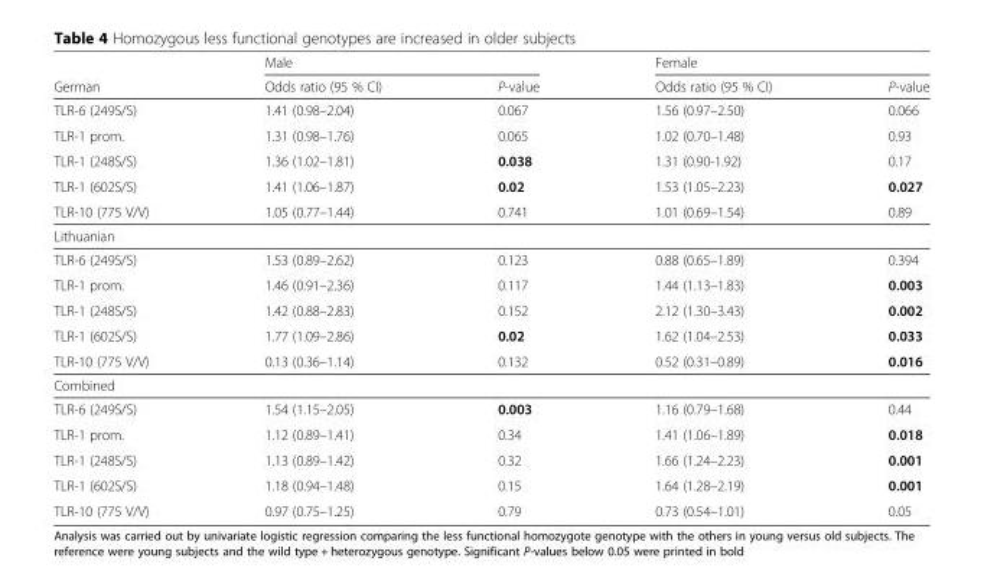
<table><thead><tr><td rowspan="2">German</td><td colspan="2">Male</td><td colspan="2">Female</td></tr><tr><td>Odds ratio (95 % CI)</td><td>P-value</td><td>Odds ratio (95 % CI)</td><td>P-value</td></tr></thead><tbody><tr><td>TLR-6 (249S/S)</td><td>1.41 (0.98–2.04)</td><td>0.067</td><td>1.56 (0.97–2.50)</td><td>0.066</td></tr><tr><td>TLR-1 prom.</td><td>1.31 (0.98–1.76)</td><td>0.065</td><td>1.02 (0.70–1.48)</td><td>0.93</td></tr><tr><td>TLR-1 (248S/S)</td><td>1.36 (1.02–1.81)</td><td>0.038</td><td>1.31 (0.90-1.92)</td><td>0.17</td></tr><tr><td>TLR-1 (602S/S)</td><td>1.41 (1.06–1.87)</td><td>0.02</td><td>1.53 (1.05–2.23)</td><td>0.027</td></tr><tr><td>TLR-10 (775 V/V)</td><td>1.05 (0.77–1.44)</td><td>0.741</td><td>1.01 (0.69–1.54)</td><td>0.89</td></tr><tr><td colspan="5">Lithuanian</td></tr><tr><td>TLR-6 (249S/S)</td><td>1.53 (0.89–2.62)</td><td>0.123</td><td>0.88 (0.65–1.89)</td><td>0.394</td></tr><tr><td>TLR-1 prom.</td><td>1.46 (0.91–2.36)</td><td>0.117</td><td>1.44 (1.13–1.83)</td><td>0.003</td></tr><tr><td>TLR-1 (248S/S)</td><td>1.42 (0.88–2.83)</td><td>0.152</td><td>2.12 (1.30–3.43)</td><td>0.002</td></tr><tr><td>TLR-1 (602S/S)</td><td>1.77 (1.09–2.86)</td><td>0.02</td><td>1.62 (1.04–2.53)</td><td>0.033</td></tr><tr><td>TLR-10 (775 V/V)</td><td>0.13 (0.36–1.14)</td><td>0.132</td><td>0.52 (0.31–0.89)</td><td>0.016</td></tr><tr><td colspan="5">Combined</td></tr><tr><td>TLR-6 (249S/S)</td><td>1.54 (1.15–2.05)</td><td>0.003</td><td>1.16 (0.79–1.68)</td><td>0.44</td></tr><tr><td>TLR-1 prom.</td><td>1.12 (0.89–1.41)</td><td>0.34</td><td>1.41 (1.06–1.89)</td><td>0.018</td></tr><tr><td>TLR-1 (248S/S)</td><td>1.13 (0.89–1.42)</td><td>0.32</td><td>1.66 (1.24–2.23)</td><td>0.001</td></tr><tr><td>TLR-1 (602S/S)</td><td>1.18 (0.94–1.48)</td><td>0.15</td><td>1.64 (1.28–2.19)</td><td>0.001</td></tr><tr><td>TLR-10 (775 V/V)</td><td>0.97 (0.75–1.25)</td><td>0.79</td><td>0.73 (0.54–1.01)</td><td>0.05</td></tr></tbody></table>